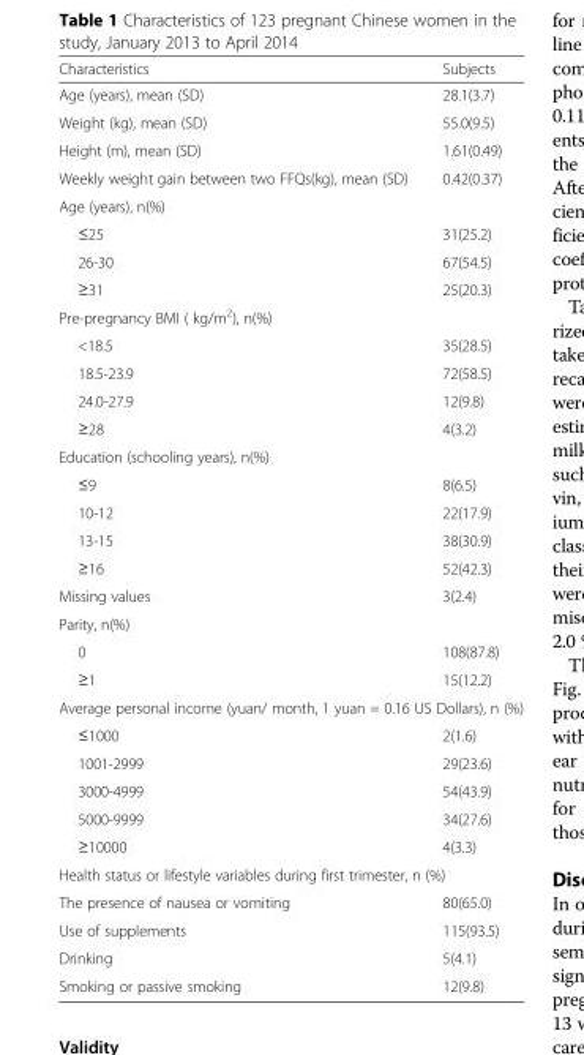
<table><thead><tr><td>Characteristics</td><td>Subjects</td></tr></thead><tbody><tr><td>Age (years), mean (SD)</td><td>28.1(3.7)</td></tr><tr><td>Weight (kg), mean (SD)</td><td>55.0(9.5)</td></tr><tr><td>Height (m), mean (SD)</td><td>1.61(0.49)</td></tr><tr><td>Weekly weight gain between two FFQs(kg), mean (SD)</td><td>0.42(0.37)</td></tr><tr><td colspan="2">Age (years), n(%)</td></tr><tr><td>≤25</td><td>31(25.2)</td></tr><tr><td>26-30</td><td>67(54.5)</td></tr><tr><td>≥31</td><td>25(20.3)</td></tr><tr><td colspan="2">Pre-pregnancy BMI ( kg/m<sup>2</sup>), n(%)</td></tr><tr><td>&lt;18.5</td><td>35(28.5)</td></tr><tr><td>18.5-23.9</td><td>72(58.5)</td></tr><tr><td>24.0-27.9</td><td>12(9.8)</td></tr><tr><td>≥28</td><td>4(3.2)</td></tr><tr><td colspan="2">Education (schooling years), n(%)</td></tr><tr><td>≤9</td><td>8(6.5)</td></tr><tr><td>10-12</td><td>22(17.9)</td></tr><tr><td>13-15</td><td>38(30.9)</td></tr><tr><td>≥16</td><td>52(42.3)</td></tr><tr><td>Missing values</td><td>3(2.4)</td></tr><tr><td colspan="2">Parity, n(%)</td></tr><tr><td>0</td><td>108(87.8)</td></tr><tr><td>≥1</td><td>15(12.2)</td></tr><tr><td colspan="2">Average personal income (yuan/ month, 1 yuan = 0.16 US Dollars), n (%)</td></tr><tr><td>≤1000</td><td>2(1.6)</td></tr><tr><td>1001-2999</td><td>29(23.6)</td></tr><tr><td>3000-4999</td><td>54(43.9)</td></tr><tr><td>5000-9999</td><td>34(27.6)</td></tr><tr><td>≥10000</td><td>4(3.3)</td></tr><tr><td colspan="2">Health status or lifestyle variables during first trimester, n (%)</td></tr><tr><td>The presence of nausea or vomiting</td><td>80(65.0)</td></tr><tr><td>Use of supplements</td><td>115(93.5)</td></tr><tr><td>Drinking</td><td>5(4.1)</td></tr><tr><td>Smoking or passive smoking</td><td>12(9.8)</td></tr></tbody></table>